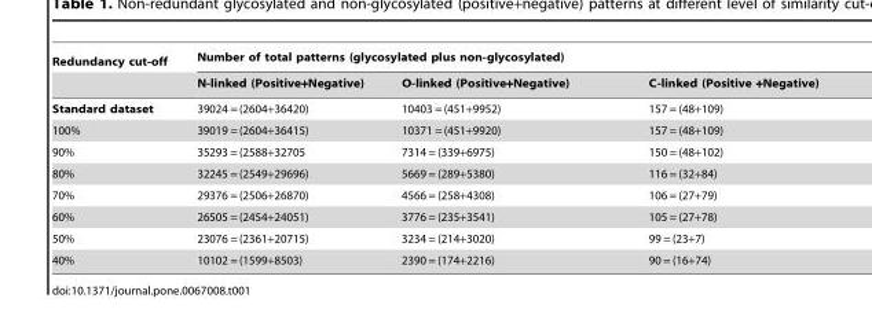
<table><thead><tr><td rowspan="2">Redundancy cut-off</td><td colspan="3">Number of total patterns (glycosylated plus non-glycosylated)</td></tr><tr><td>N-linked (Positive+Negative)</td><td>O-linked (Positive+Negative)</td><td>C-linked (Positive +Negative)</td></tr></thead><tbody><tr><td>Standard dataset</td><td>39024 = (2604+36420)</td><td>10403 = (451+9952)</td><td>157 = (48+109)</td></tr><tr><td>100%</td><td>39019 = (2604+36415)</td><td>10371 = (451+9920)</td><td>157 = (48+109)</td></tr><tr><td>90%</td><td>35293 = (2588+32705</td><td>7314 = (339+6975)</td><td>150 = (48+102)</td></tr><tr><td>80%</td><td>32245 = (2549+29696)</td><td>5669 = (289+5380)</td><td>116 = (32+84)</td></tr><tr><td>70%</td><td>29376 = (2506+26870)</td><td>4566 = (258+4308)</td><td>106 = (27+79)</td></tr><tr><td>60%</td><td>26505 = (2454+24051)</td><td>3776 = (235+3541)</td><td>105 = (27+78)</td></tr><tr><td>50%</td><td>23076 = (2361+20715)</td><td>3234 = (214+3020)</td><td>99 = (23+7)</td></tr><tr><td>40%</td><td>10102 = (1599+8503)</td><td>2390 = (174+2216)</td><td>90 = (16+74)</td></tr></tbody></table>